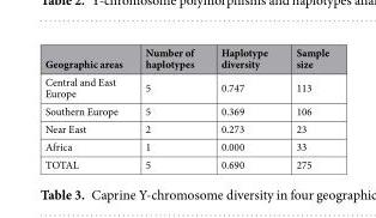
<table><thead><tr><td>Geographic areas</td><td>Number of haplotypes</td><td>Haplotype diversity</td><td>Sample size</td></tr></thead><tbody><tr><td>Central and East Europe</td><td>5</td><td>0.747</td><td>113</td></tr><tr><td>Southern Europe</td><td>5</td><td>0.369</td><td>106</td></tr><tr><td>Near East</td><td>2</td><td>0.273</td><td>23</td></tr><tr><td>Africa</td><td>1</td><td>0.000</td><td>33</td></tr><tr><td>TOTAL</td><td>5</td><td>0.690</td><td>275</td></tr></tbody></table>